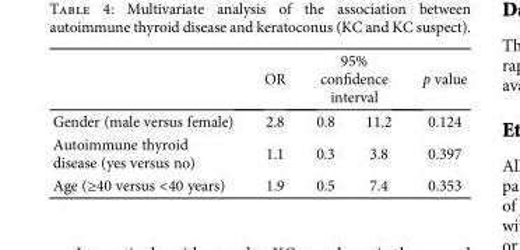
<table><thead><tr><td rowspan="2">Gender (male versus female)</td><td rowspan="2">OR 2.8</td><td colspan="2">95% confidence interval</td><td rowspan="2">p value 0.124</td></tr><tr><td>0.8</td><td>11.2</td></tr></thead><tbody><tr><td>Autoimmune thyroid disease (yes versus no)</td><td>1.1</td><td>0.3</td><td>3.8</td><td>0.397</td></tr><tr><td>Age (≥40 versus &lt;40 years)</td><td>1.9</td><td>0.5</td><td>7.4</td><td>0.353</td></tr></tbody></table>